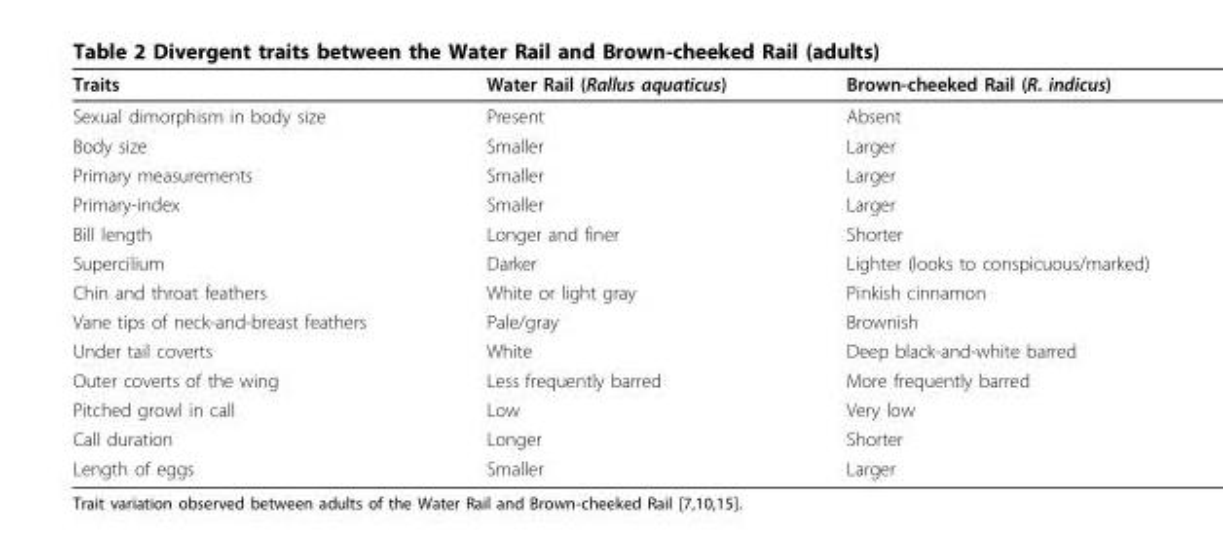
<table><thead><tr><td>Traits</td><td>Water Rail (Rallus aquaticus)</td><td>Brown-cheeked Rail (R. indicus)</td></tr></thead><tbody><tr><td>Sexual dimorphism in body size</td><td>Present</td><td>Absent</td></tr><tr><td>Body size</td><td>Smaller</td><td>Larger</td></tr><tr><td>Primary measurements</td><td>Smaller</td><td>Larger</td></tr><tr><td>Primary-index</td><td>Smaller</td><td>Larger</td></tr><tr><td>Bill length</td><td>Longer and finer</td><td>Shorter</td></tr><tr><td>Supercilium</td><td>Darker</td><td>Lighter (looks to conspicuous/marked)</td></tr><tr><td>Chin and throat feathers</td><td>White or light gray</td><td>Pinkish cinnamon</td></tr><tr><td>Vane tips of neck-and-breast feathers</td><td>Pale/gray</td><td>Brownish</td></tr><tr><td>Under tail coverts</td><td>White</td><td>Deep black-and-white barred</td></tr><tr><td>Outer coverts of the wing</td><td>Less frequently barred</td><td>More frequently barred</td></tr><tr><td>Pitched growl in call</td><td>Low</td><td>Very low</td></tr><tr><td>Call duration</td><td>Longer</td><td>Shorter</td></tr><tr><td>Length of eggs</td><td>Smaller</td><td>Larger</td></tr></tbody></table>